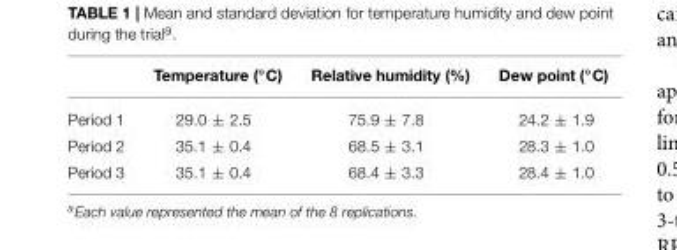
<table><thead><tr><td></td><td>Temperature (◦C)</td><td>Relative humidity (%)</td><td>Dew point (◦C)</td></tr></thead><tbody><tr><td>Period 1</td><td>29.0 ± 2.5</td><td>75.9 ± 7.8</td><td>24.2 ± 1.9</td></tr><tr><td>Period 2</td><td>35.1 ± 0.4</td><td>68.5 ± 3.1</td><td>28.3 ± 1.0</td></tr><tr><td>Period 3</td><td>35.1 ± 0.4</td><td>68.4 ± 3.3</td><td>28.4 ± 1.0</td></tr></tbody></table>